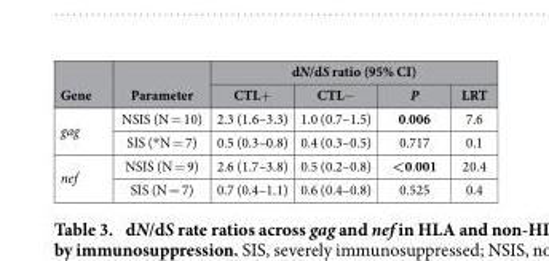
<table><thead><tr><td rowspan="2">Gene</td><td rowspan="2">Parameter</td><td colspan="4">dN/dS ratio (95% CI)</td></tr><tr><td>CTL+</td><td>CTL−</td><td>P</td><td>LRT</td></tr></thead><tbody><tr><td rowspan="2">gag</td><td>NSIS (N = 10)</td><td>2.3 (1.6–3.3)</td><td>1.0 (0.7–1.5)</td><td>0.006</td><td>7.6</td></tr><tr><td>SIS (* N = 7)</td><td>0.5 (0.3–0.8)</td><td>0.4 (0.3–0.5)</td><td>0.717</td><td>0.1</td></tr><tr><td rowspan="2">nef</td><td>NSIS (N = 9)</td><td>2.6 (1.7–3.8)</td><td>0.5 (0.2–0.8)</td><td>&lt;0.001</td><td>20.4</td></tr><tr><td>SIS (N = 7)</td><td>0.7 (0.4–1.1)</td><td>0.6 (0.4–0.8)</td><td>0.525</td><td>0.4</td></tr></tbody></table>